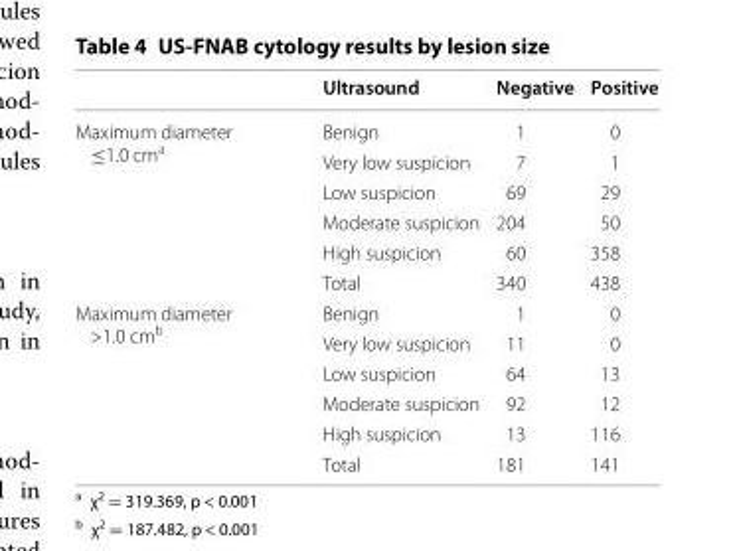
<table><thead><tr><td></td><td>Ultrasound</td><td>Negative</td><td>Positive</td></tr></thead><tbody><tr><td rowspan="6">Maximum diameter ≤1.0 cm<sup>a</sup></td><td>Benign</td><td>1</td><td>0</td></tr><tr><td>Very low suspicion</td><td>7</td><td>1</td></tr><tr><td>Low suspicion</td><td>69</td><td>29</td></tr><tr><td>Moderate suspicion</td><td>204</td><td>50</td></tr><tr><td>High suspicion</td><td>60</td><td>358</td></tr><tr><td>Total</td><td>340</td><td>438</td></tr><tr><td rowspan="6">Maximum diameter &gt;1.0 cm<sup>b</sup></td><td>Benign</td><td>1</td><td>0</td></tr><tr><td>Very low suspicion</td><td>11</td><td>0</td></tr><tr><td>Low suspicion</td><td>64</td><td>13</td></tr><tr><td>Moderate suspicion</td><td>92</td><td>12</td></tr><tr><td>High suspicion</td><td>13</td><td>116</td></tr><tr><td>Total</td><td>181</td><td>141</td></tr></tbody></table>